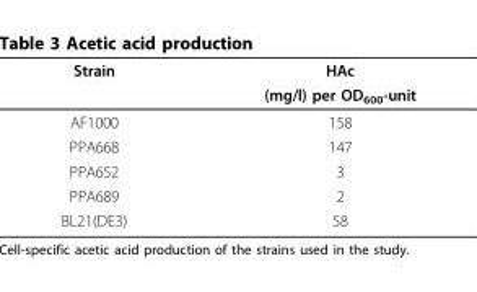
<table><thead><tr><td rowspan="2">Strain</td><td rowspan="2">HAc (mg/l) per OD<sub>600</sub>-unit</td></tr><tr></tr></thead><tbody><tr><td>AF1000</td><td>158</td></tr><tr><td>PPA668</td><td>147</td></tr><tr><td>PPA652</td><td>3</td></tr><tr><td>PPA689</td><td>2</td></tr><tr><td>BL21(DE3)</td><td>58</td></tr></tbody></table>